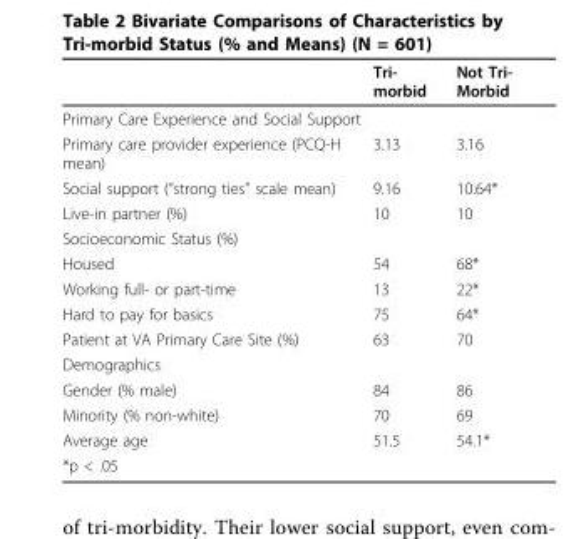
<table><thead><tr><td></td><td>Tri- morbid</td><td>Not Tri- Morbid</td></tr></thead><tbody><tr><td colspan="3">Primary Care Experience and Social Support</td></tr><tr><td>Primary care provider experience (PCQ-H mean)</td><td>3.13</td><td>3.16</td></tr><tr><td>Social support (“strong ties” scale mean)</td><td>9.16</td><td>10.64*</td></tr><tr><td>Live-in partner (%)</td><td>10</td><td>10</td></tr><tr><td colspan="3">Socioeconomic Status (%)</td></tr><tr><td>Housed</td><td>54</td><td>68*</td></tr><tr><td>Working full- or part-time</td><td>13</td><td>22*</td></tr><tr><td>Hard to pay for basics</td><td>75</td><td>64*</td></tr><tr><td>Patient at VA Primary Care Site (%)</td><td>63</td><td>70</td></tr><tr><td colspan="3">Demographics</td></tr><tr><td>Gender (% male)</td><td>84</td><td>86</td></tr><tr><td>Minority (% non-white)</td><td>70</td><td>69</td></tr><tr><td>Average age</td><td>51.5</td><td>54.1*</td></tr><tr><td>*p &lt; .05</td><td></td><td></td></tr></tbody></table>